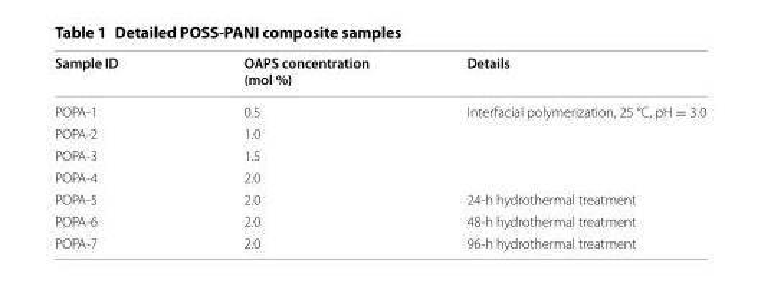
<table><thead><tr><td>Sample ID</td><td>OAPS concentration (mol %)</td><td>Details</td></tr></thead><tbody><tr><td>POPA-1</td><td>0.5</td><td rowspan="4">Interfacial polymerization, 25 °C, pH = 3.0</td></tr><tr><td>POPA-2</td><td>1.0</td></tr><tr><td>POPA-3</td><td>1.5</td></tr><tr><td>POPA-4</td><td>2.0</td></tr><tr><td>POPA-5</td><td>2.0</td><td>24-h hydrothermal treatment</td></tr><tr><td>POPA-6</td><td>2.0</td><td>48-h hydrothermal treatment</td></tr><tr><td>POPA-7</td><td>2.0</td><td>96-h hydrothermal treatment</td></tr></tbody></table>